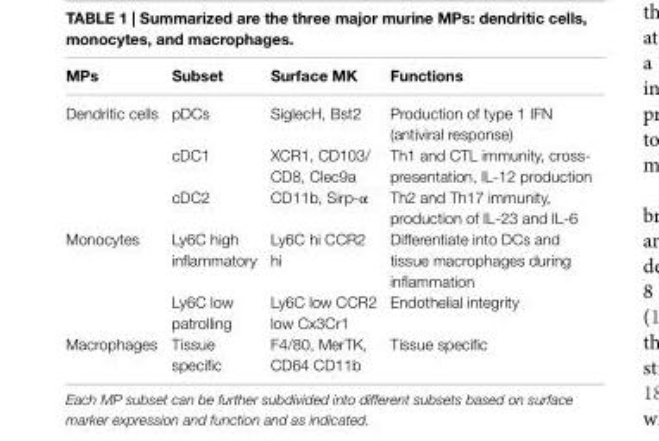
<table><thead><tr><td>MPs</td><td>Subset</td><td>Surface MK</td><td>Functions</td></tr></thead><tbody><tr><td rowspan="3">Dendritic cells</td><td>pDCs</td><td>SiglecH, Bst2</td><td>Production of type 1 IFN (antiviral response)</td></tr><tr><td>cDC1</td><td>XCR1, CD103/ CD8, Clec9a</td><td>Th1 and CTL immunity, cross- presentation, IL-12 production</td></tr><tr><td>cDC2</td><td>CD11b, Sirp-α</td><td>Th2 and Th17 immunity, production of IL-23 and IL-6</td></tr><tr><td rowspan="2">Monocytes</td><td>Ly6C high inflammatory</td><td>Ly6C hi CCR2 hi</td><td>Differentiate into DCs and tissue macrophages during inflammation</td></tr><tr><td>Ly6C low patrolling</td><td>Ly6C low CCR2 low Cx3Cr1</td><td>Endothelial integrity</td></tr><tr><td>Macrophages</td><td>Tissue specific</td><td>F4/80, MerTK, CD64 CD11b</td><td>Tissue specific</td></tr></tbody></table>